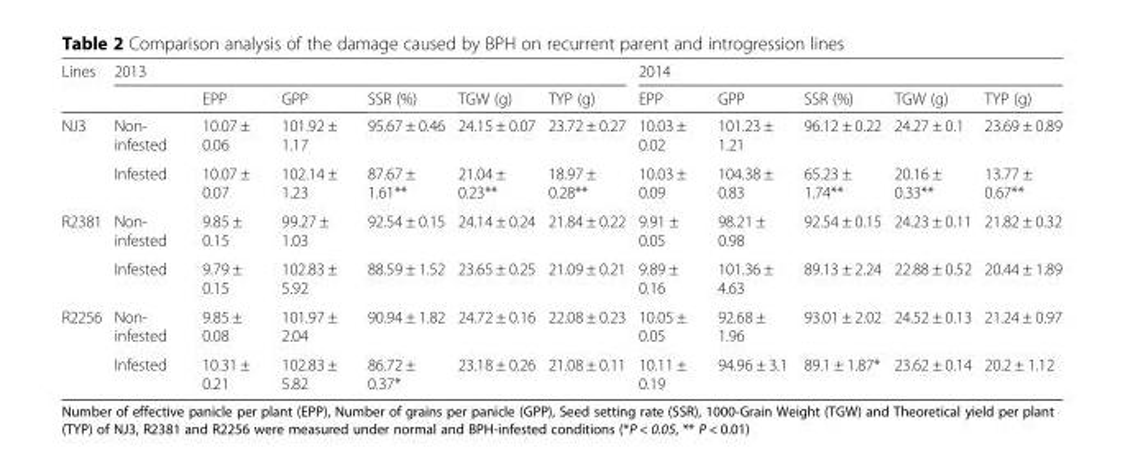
<table><thead><tr><td rowspan="2">Lines</td><td colspan="6">2013</td><td colspan="5">2014</td></tr><tr><td></td><td>EPP</td><td>GPP</td><td>SSR (%)</td><td>TGW (g)</td><td>TYP (g)</td><td>EPP</td><td>GPP</td><td>SSR (%)</td><td>TGW (g)</td><td>TYP (g)</td></tr></thead><tbody><tr><td rowspan="2">NJ3</td><td>Non- infested</td><td>10.07 ± 0.06</td><td>101.92 ± 1.17</td><td>95.67 ± 0.46</td><td>24.15 ± 0.07</td><td>23.72 ± 0.27</td><td>10.03 ± 0.02</td><td>101.23 ± 1.21</td><td>96.12 ± 0.22</td><td>24.27 ± 0.1</td><td>23.69 ± 0.89</td></tr><tr><td>Infested</td><td>10.07 ± 0.07</td><td>102.14 ± 1.23</td><td>87.67 ± 1.61**</td><td>21.04 ± 0.23**</td><td>18.97 ± 0.28**</td><td>10.03 ± 0.09</td><td>104.38 ± 0.83</td><td>65.23 ± 1.74**</td><td>20.16 ± 0.33**</td><td>13.77 ± 0.67**</td></tr><tr><td rowspan="2">R2381</td><td>Non- infested</td><td>9.85 ± 0.15</td><td>99.27 ± 1.03</td><td>92.54 ± 0.15</td><td>24.14 ± 0.24</td><td>21.84 ± 0.22</td><td>9.91 ± 0.05</td><td>98.21 ± 0.98</td><td>92.54 ± 0.15</td><td>24.23 ± 0.11</td><td>21.82 ± 0.32</td></tr><tr><td>Infested</td><td>9.79 ± 0.15</td><td>102.83 ± 5.92</td><td>88.59 ± 1.52</td><td>23.65 ± 0.25</td><td>21.09 ± 0.21</td><td>9.89 ± 0.16</td><td>101.36 ± 4.63</td><td>89.13 ± 2.24</td><td>22.88 ± 0.52</td><td>20.44 ± 1.89</td></tr><tr><td rowspan="2">R2256</td><td>Non- infested</td><td>9.85 ± 0.08</td><td>101.97 ± 2.04</td><td>90.94 ± 1.82</td><td>24.72 ± 0.16</td><td>22.08 ± 0.23</td><td>10.05 ± 0.05</td><td>92.68 ± 1.96</td><td>93.01 ± 2.02</td><td>24.52 ± 0.13</td><td>21.24 ± 0.97</td></tr><tr><td>Infested</td><td>10.31 ± 0.21</td><td>102.83 ± 5.82</td><td>86.72 ± 0.37*</td><td>23.18 ± 0.26</td><td>21.08 ± 0.11</td><td>10.11 ± 0.19</td><td>94.96 ± 3.1</td><td>89.1 ± 1.87*</td><td>23.62 ± 0.14</td><td>20.2 ± 1.12</td></tr></tbody></table>